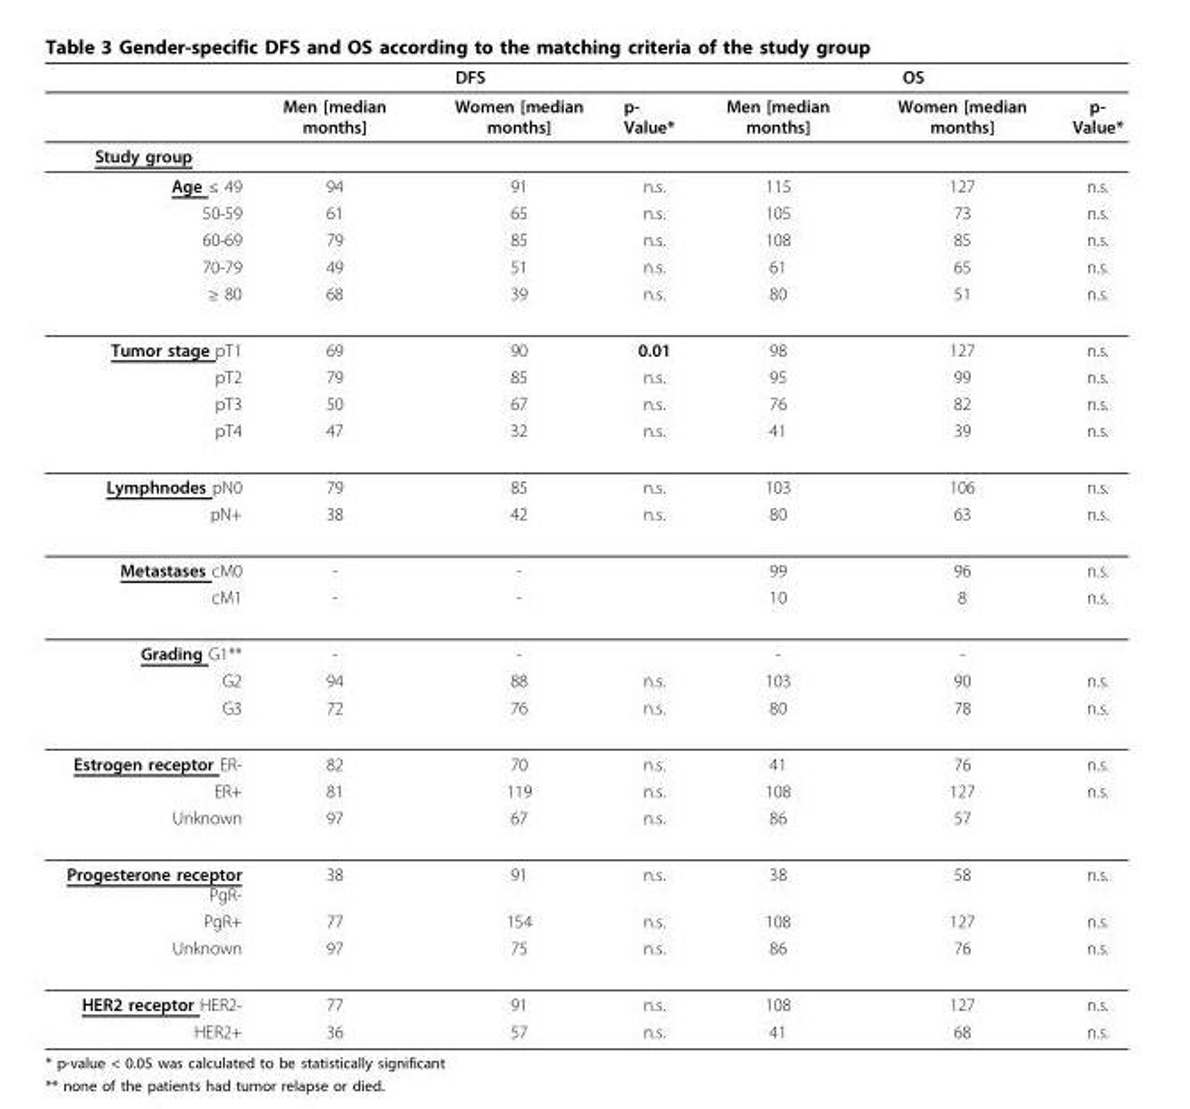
<table><thead><tr><td rowspan="2"></td><td colspan="3">DFS</td><td colspan="3">OS</td></tr><tr><td>Men [median months]</td><td>Women [median months]</td><td>p- Value*</td><td>Men [median months]</td><td>Women [median months]</td><td>p- Value*</td></tr></thead><tbody><tr><td colspan="7">Study group</td></tr><tr><td>Age ≤ 49</td><td>94</td><td>91</td><td>n.s.</td><td>115</td><td>127</td><td>n.s.</td></tr><tr><td>50-59</td><td>61</td><td>65</td><td>n.s.</td><td>105</td><td>73</td><td>n.s.</td></tr><tr><td>60-69</td><td>79</td><td>85</td><td>n.s.</td><td>108</td><td>85</td><td>n.s.</td></tr><tr><td>70-79</td><td>49</td><td>51</td><td>n.s.</td><td>61</td><td>65</td><td>n.s.</td></tr><tr><td>≥ 80</td><td>68</td><td>39</td><td>n.s.</td><td>80</td><td>51</td><td>n.s.</td></tr><tr><td>Tumor stage pT1</td><td>69</td><td>90</td><td>0.01</td><td>98</td><td>127</td><td>n.s.</td></tr><tr><td>pT2</td><td>79</td><td>85</td><td>n.s.</td><td>95</td><td>99</td><td>n.s.</td></tr><tr><td>pT3</td><td>50</td><td>67</td><td>n.s.</td><td>76</td><td>82</td><td>n.s.</td></tr><tr><td>pT4</td><td>47</td><td>32</td><td>n.s.</td><td>41</td><td>39</td><td>n.s.</td></tr><tr><td>Lymphnodes pN0</td><td>79</td><td>85</td><td>n.s.</td><td>103</td><td>106</td><td>n.s.</td></tr><tr><td>pN+</td><td>38</td><td>42</td><td>n.s.</td><td>80</td><td>63</td><td>n.s.</td></tr><tr><td>Metastases cM0</td><td>-</td><td>-</td><td></td><td>99</td><td>96</td><td>n.s.</td></tr><tr><td>cM1</td><td>-</td><td>-</td><td></td><td>10</td><td>8</td><td>n.s.</td></tr><tr><td>Grading G1**</td><td>-</td><td>-</td><td></td><td>-</td><td>-</td><td></td></tr><tr><td>G2</td><td>94</td><td>88</td><td>n.s.</td><td>103</td><td>90</td><td>n.s.</td></tr><tr><td>G3</td><td>72</td><td>76</td><td>n.s.</td><td>80</td><td>78</td><td>n.s.</td></tr><tr><td>Estrogen receptor ER-</td><td>82</td><td>70</td><td>n.s.</td><td>41</td><td>76</td><td>n.s.</td></tr><tr><td>ER+</td><td>81</td><td>119</td><td>n.s.</td><td>108</td><td>127</td><td>n.s.</td></tr><tr><td>Unknown</td><td>97</td><td>67</td><td>n.s.</td><td>86</td><td>57</td><td></td></tr><tr><td>Progesterone receptor PgR-</td><td>38</td><td>91</td><td>n.s.</td><td>38</td><td>58</td><td>n.s.</td></tr><tr><td>PgR+</td><td>77</td><td>154</td><td>n.s.</td><td>108</td><td>127</td><td>n.s.</td></tr><tr><td>Unknown</td><td>97</td><td>75</td><td>n.s.</td><td>86</td><td>76</td><td>n.s.</td></tr><tr><td>HER2 receptor HER2-</td><td>77</td><td>91</td><td>n.s.</td><td>108</td><td>127</td><td>n.s.</td></tr><tr><td>HER2+</td><td>36</td><td>57</td><td>n.s.</td><td>41</td><td>68</td><td>n.s.</td></tr></tbody></table>